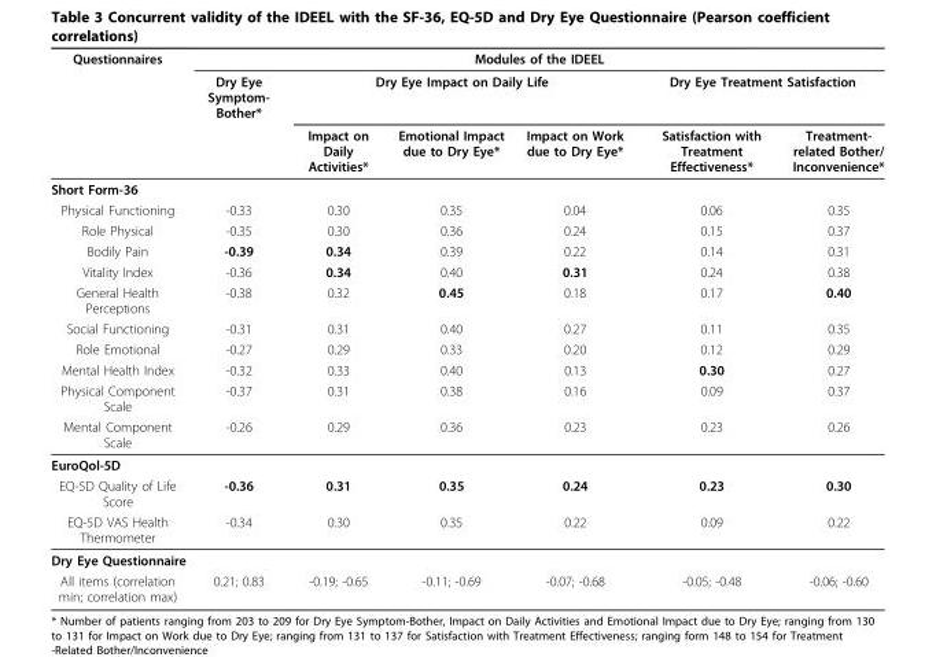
<table><thead><tr><td rowspan="3">Questionnaires</td><td colspan="6">Modules of the IDEEL</td></tr><tr><td rowspan="2">Dry Eye Symptom- Bother*</td><td colspan="3">Dry Eye Impact on Daily Life</td><td colspan="2">Dry Eye Treatment Satisfaction</td></tr><tr><td>Impact on Daily Activities*</td><td>Emotional Impact due to Dry Eye*</td><td>Impact on Work due to Dry Eye*</td><td>Satisfaction with Treatment Effectiveness*</td><td>Treatment- related Bother/ Inconvenience*</td></tr></thead><tbody><tr><td colspan="7">Short Form-36</td></tr><tr><td>Physical Functioning</td><td>-0.33</td><td>0.30</td><td>0.35</td><td>0.04</td><td>0.06</td><td>0.35</td></tr><tr><td>Role Physical</td><td>-0.35</td><td>0.30</td><td>0.36</td><td>0.24</td><td>0.15</td><td>0.37</td></tr><tr><td>Bodily Pain</td><td>-0.39</td><td>0.34</td><td>0.39</td><td>0.22</td><td>0.14</td><td>0.31</td></tr><tr><td>Vitality Index</td><td>-0.36</td><td>0.34</td><td>0.40</td><td>0.31</td><td>0.24</td><td>0.38</td></tr><tr><td>General Health Perceptions</td><td>-0.38</td><td>0.32</td><td>0.45</td><td>0.18</td><td>0.17</td><td>0.40</td></tr><tr><td>Social Functioning</td><td>-0.31</td><td>0.31</td><td>0.40</td><td>0.27</td><td>0.11</td><td>0.35</td></tr><tr><td>Role Emotional</td><td>-0.27</td><td>0.29</td><td>0.33</td><td>0.20</td><td>0.12</td><td>0.29</td></tr><tr><td>Mental Health Index</td><td>-0.32</td><td>0.33</td><td>0.40</td><td>0.13</td><td>0.30</td><td>0.27</td></tr><tr><td>Physical Component Scale</td><td>-0.37</td><td>0.31</td><td>0.38</td><td>0.16</td><td>0.09</td><td>0.37</td></tr><tr><td>Mental Component Scale</td><td>-0.26</td><td>0.29</td><td>0.36</td><td>0.23</td><td>0.23</td><td>0.26</td></tr><tr><td colspan="7">EuroQol-5D</td></tr><tr><td>EQ-5D Quality of Life Score</td><td>-0.36</td><td>0.31</td><td>0.35</td><td>0.24</td><td>0.23</td><td>0.30</td></tr><tr><td>EQ-5D VAS Health Thermometer</td><td>-0.34</td><td>0.30</td><td>0.35</td><td>0.22</td><td>0.09</td><td>0.22</td></tr><tr><td colspan="7">Dry Eye Questionnaire</td></tr><tr><td>All items (correlation min; correlation max)</td><td>0.21; 0.83</td><td>-0.19; -0.65</td><td>-0.11; -0.69</td><td>-0.07; -0.68</td><td>-0.05; -0.48</td><td>-0.06; -0.60</td></tr></tbody></table>